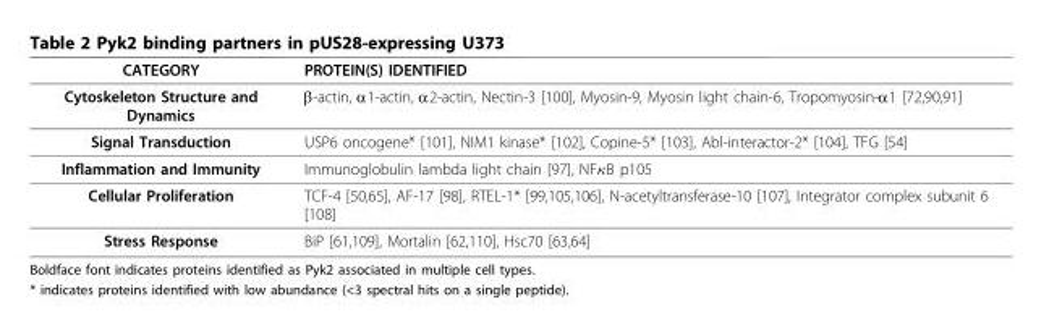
<table><thead><tr><td>CATEGORY</td><td>PROTEIN(S) IDENTIFIED</td></tr></thead><tbody><tr><td>Cytoskeleton Structure and Dynamics</td><td>β-actin, α1-actin, α2-actin, Nectin-3 [100], Myosin-9, Myosin light chain-6, Tropomyosin-α1 [72,90,91]</td></tr><tr><td>Signal Transduction</td><td>USP6 oncogene* [101], NIM1 kinase* [102], Copine-5* [103], Abl-interactor-2* [104], TFG [54]</td></tr><tr><td>Inflammation and Immunity</td><td>Immunoglobulin lambda light chain [97], NFκB p105</td></tr><tr><td>Cellular Proliferation</td><td>TCF-4 [50,65], AF-17 [98], RTEL-1* [99,105,106], N-acetyltransferase-10 [107], Integrator complex subunit 6 [108]</td></tr><tr><td>Stress Response</td><td>BiP [61,109], Mortalin [62,110], Hsc70 [63,64]</td></tr></tbody></table>